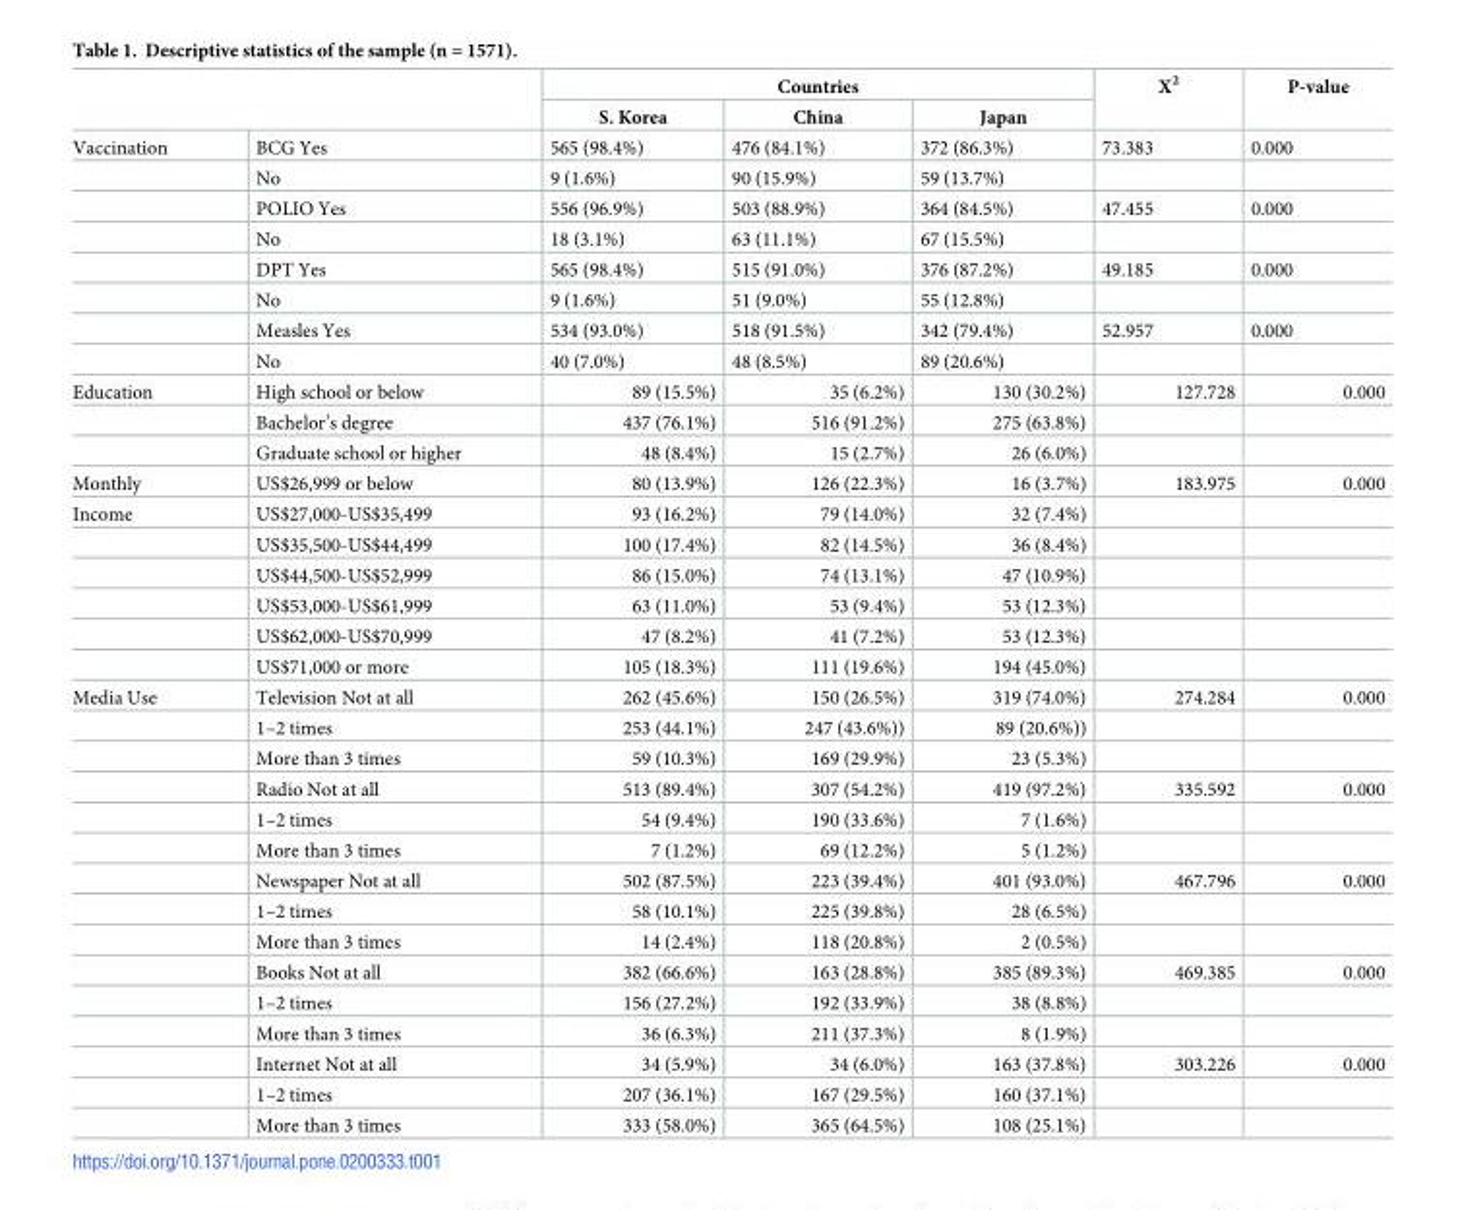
<table><thead><tr><td rowspan="2"></td><td rowspan="2"></td><td colspan="3">Countries</td><td rowspan="2">X<sup>2</sup></td><td rowspan="2">P-value</td></tr><tr><td>S. Korea</td><td>China</td><td>Japan</td></tr></thead><tbody><tr><td rowspan="8">Vaccination</td><td>BCG Yes</td><td>565 (98.4%)</td><td>476 (84.1%)</td><td>372 (86.3%)</td><td>73.383</td><td>0.000</td></tr><tr><td>No</td><td>9 (1.6%)</td><td>90 (15.9%)</td><td>59 (13.7%)</td><td></td><td></td></tr><tr><td>POLIO Yes</td><td>556 (96.9%)</td><td>503 (88.9%)</td><td>364 (84.5%)</td><td>47.455</td><td>0.000</td></tr><tr><td>No</td><td>18 (3.1%)</td><td>63 (11.1%)</td><td>67 (15.5%)</td><td></td><td></td></tr><tr><td>DPT Yes</td><td>565 (98.4%)</td><td>515 (91.0%)</td><td>376 (87.2%)</td><td>49.185</td><td>0.000</td></tr><tr><td>No</td><td>9 (1.6%)</td><td>51 (9.0%)</td><td>55 (12.8%)</td><td></td><td></td></tr><tr><td>Measles Yes</td><td>534 (93.0%)</td><td>518 (91.5%)</td><td>342 (79.4%)</td><td>52.957</td><td>0.000</td></tr><tr><td>No</td><td>40 (7.0%)</td><td>48 (8.5%)</td><td>89 (20.6%)</td><td></td><td></td></tr><tr><td rowspan="3">Education</td><td>High school or below</td><td>89 (15.5%)</td><td>35 (6.2%)</td><td>130 (30.2%)</td><td>127.728</td><td>0.000</td></tr><tr><td>Bachelor’s degree</td><td>437 (76.1%)</td><td>516 (91.2%)</td><td>275 (63.8%)</td><td></td><td></td></tr><tr><td>Graduate school or higher</td><td>48 (8.4%)</td><td>15 (2.7%)</td><td>26 (6.0%)</td><td></td><td></td></tr><tr><td>Monthly</td><td>US$26,999 or below</td><td>80 (13.9%)</td><td>126 (22.3%)</td><td>16 (3.7%)</td><td>183.975</td><td>0.000</td></tr><tr><td rowspan="6">Income</td><td>US$27,000-US$35,499</td><td>93 (16.2%)</td><td>79 (14.0%)</td><td>32 (7.4%)</td><td></td><td></td></tr><tr><td>US$35,500-US$44,499</td><td>100 (17.4%)</td><td>82 (14.5%)</td><td>36 (8.4%)</td><td></td><td></td></tr><tr><td>US$44,500-US$52,999</td><td>86 (15.0%)</td><td>74 (13.1%)</td><td>47 (10.9%)</td><td></td><td></td></tr><tr><td>US$53,000-US$61,999</td><td>63 (11.0%)</td><td>53 (9.4%)</td><td>53 (12.3%)</td><td></td><td></td></tr><tr><td>US$62,000-US$70,999</td><td>47 (8.2%)</td><td>41 (7.2%)</td><td>53 (12.3%)</td><td></td><td></td></tr><tr><td>US$71,000 or more</td><td>105 (18.3%)</td><td>111 (19.6%)</td><td>194 (45.0%)</td><td></td><td></td></tr><tr><td rowspan="15">Media Use</td><td>Television Not at all</td><td>262 (45.6%)</td><td>150 (26.5%)</td><td>319 (74.0%)</td><td>274.284</td><td>0.000</td></tr><tr><td>1–2 times</td><td>253 (44.1%)</td><td>247 (43.6%))</td><td>89 (20.6%))</td><td></td><td></td></tr><tr><td>More than 3 times</td><td>59 (10.3%)</td><td>169 (29.9%)</td><td>23 (5.3%)</td><td></td><td></td></tr><tr><td>Radio Not at all</td><td>513 (89.4%)</td><td>307 (54.2%)</td><td>419 (97.2%)</td><td>335.592</td><td>0.000</td></tr><tr><td>1–2 times</td><td>54 (9.4%)</td><td>190 (33.6%)</td><td>7 (1.6%)</td><td></td><td></td></tr><tr><td>More than 3 times</td><td>7 (1.2%)</td><td>69 (12.2%)</td><td>5 (1.2%)</td><td></td><td></td></tr><tr><td>Newspaper Not at all</td><td>502 (87.5%)</td><td>223 (39.4%)</td><td>401 (93.0%)</td><td>467.796</td><td>0.000</td></tr><tr><td>1–2 times</td><td>58 (10.1%)</td><td>225 (39.8%)</td><td>28 (6.5%)</td><td></td><td></td></tr><tr><td>More than 3 times</td><td>14 (2.4%)</td><td>118 (20.8%)</td><td>2 (0.5%)</td><td></td><td></td></tr><tr><td>Books Not at all</td><td>382 (66.6%)</td><td>163 (28.8%)</td><td>385 (89.3%)</td><td>469.385</td><td>0.000</td></tr><tr><td>1–2 times</td><td>156 (27.2%)</td><td>192 (33.9%)</td><td>38 (8.8%)</td><td></td><td></td></tr><tr><td>More than 3 times</td><td>36 (6.3%)</td><td>211 (37.3%)</td><td>8 (1.9%)</td><td></td><td></td></tr><tr><td>Internet Not at all</td><td>34 (5.9%)</td><td>34 (6.0%)</td><td>163 (37.8%)</td><td>303.226</td><td>0.000</td></tr><tr><td>1–2 times</td><td>207 (36.1%)</td><td>167 (29.5%)</td><td>160 (37.1%)</td><td></td><td></td></tr><tr><td>More than 3 times</td><td>333 (58.0%)</td><td>365 (64.5%)</td><td>108 (25.1%)</td><td></td><td></td></tr></tbody></table>